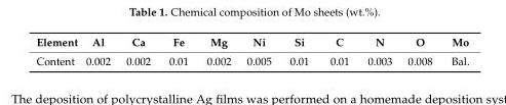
<table><thead><tr><td>Element</td><td>Al</td><td>Ca</td><td>Fe</td><td>Mg</td><td>Ni</td><td>Si</td><td>C</td><td>N</td><td>O</td><td>Mo</td></tr></thead><tbody><tr><td>Content</td><td>0.002</td><td>0.002</td><td>0.01</td><td>0.002</td><td>0.005</td><td>0.01</td><td>0.01</td><td>0.003</td><td>0.008</td><td>Bal.</td></tr></tbody></table>